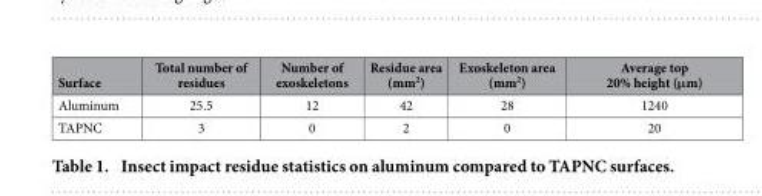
<table><thead><tr><td>Surface</td><td>Total number of residues</td><td>Number of exoskeletons</td><td>Residue area (mm<sup>2</sup>)</td><td>Exoskeleton area (mm<sup>2</sup>)</td><td>Average top 20% height (μm)</td></tr></thead><tbody><tr><td>Aluminum</td><td>25.5</td><td>12</td><td>42</td><td>28</td><td>1240</td></tr><tr><td>TAPNC</td><td>3</td><td>0</td><td>2</td><td>0</td><td>20</td></tr></tbody></table>